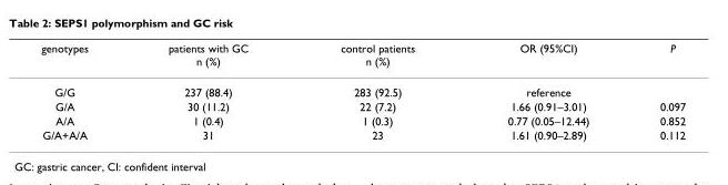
<table><thead><tr><td>genotypes</td><td>patients with GC n (%)</td><td>control patients n (%)</td><td>OR (95%CI)</td><td>P</td></tr></thead><tbody><tr><td>G/G</td><td>237 (88.4)</td><td>283 (92.5)</td><td>reference</td><td></td></tr><tr><td>G/A</td><td>30 (11.2)</td><td>22 (7.2)</td><td>1.66 (0.91–3.01)</td><td>0.097</td></tr><tr><td>A/A</td><td>1 (0.4)</td><td>1 (0.3)</td><td>0.77 (0.05–12.44)</td><td>0.852</td></tr><tr><td>G/A+A/A</td><td>31</td><td>23</td><td>1.61 (0.90–2.89)</td><td>0.112</td></tr></tbody></table>